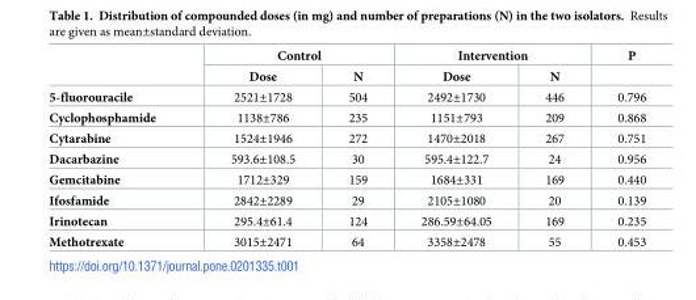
<table><thead><tr><td rowspan="2"></td><td colspan="2">Control</td><td colspan="2">Intervention</td><td rowspan="2">P</td></tr><tr><td>Dose</td><td>N</td><td>Dose</td><td>N</td></tr></thead><tbody><tr><td>5-fluorouracile</td><td>2521±1728</td><td>504</td><td>2492±1730</td><td>446</td><td>0.796</td></tr><tr><td>Cyclophosphamide</td><td>1138±786</td><td>235</td><td>1151±793</td><td>209</td><td>0.868</td></tr><tr><td>Cytarabine</td><td>1524±1946</td><td>272</td><td>1470±2018</td><td>267</td><td>0.751</td></tr><tr><td>Dacarbazine</td><td>593.6±108.5</td><td>30</td><td>595.4±122.7</td><td>24</td><td>0.956</td></tr><tr><td>Gemcitabine</td><td>1712±329</td><td>159</td><td>1684±331</td><td>169</td><td>0.440</td></tr><tr><td>Ifosfamide</td><td>2842±2289</td><td>29</td><td>2105±1080</td><td>20</td><td>0.139</td></tr><tr><td>Irinotecan</td><td>295.4±61.4</td><td>124</td><td>286.59±64.05</td><td>169</td><td>0.235</td></tr><tr><td>Methotrexate</td><td>3015±2471</td><td>64</td><td>3358±2478</td><td>55</td><td>0.453</td></tr></tbody></table>